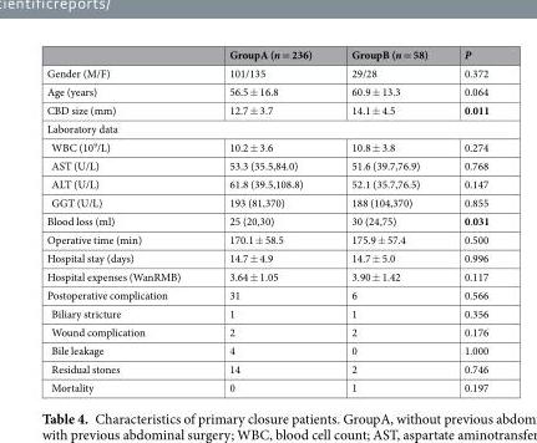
<table><thead><tr><td></td><td>GroupA (n = 236)</td><td>GroupB (n = 58)</td><td>P</td></tr></thead><tbody><tr><td>Gender (M/F)</td><td>101/135</td><td>29/28</td><td>0.372</td></tr><tr><td>Age (years)</td><td>56.5 ± 16.8</td><td>60.9 ± 13.3</td><td>0.064</td></tr><tr><td>CBD size (mm)</td><td>12.7 ± 3.7</td><td>14.1 ± 4.5</td><td>0.011</td></tr><tr><td colspan="4">Laboratory data</td></tr><tr><td>WBC (10<sup>9</sup>/L)</td><td>10.2 ± 3.6</td><td>10.8 ± 3.8</td><td>0.274</td></tr><tr><td>AST (U/L)</td><td>53.3 (35.5,84.0)</td><td>51.6 (39.7,76.9)</td><td>0.768</td></tr><tr><td>ALT (U/L)</td><td>61.8 (39.5,108.8)</td><td>52.1 (35.7,76.5)</td><td>0.147</td></tr><tr><td>GGT (U/L)</td><td>193 (81,370)</td><td>188 (104,370)</td><td>0.855</td></tr><tr><td>Blood loss (ml)</td><td>25 (20,30)</td><td>30 (24,75)</td><td>0.031</td></tr><tr><td>Operative time (min)</td><td>170.1 ± 58.5</td><td>175.9 ± 57.4</td><td>0.500</td></tr><tr><td>Hospital stay (days)</td><td>14.7 ± 4.9</td><td>14.7 ± 5.0</td><td>0.996</td></tr><tr><td>Hospital expenses (WanRMB)</td><td>3.64 ± 1.05</td><td>3.90 ± 1.42</td><td>0.117</td></tr><tr><td>Postoperative complication</td><td>31</td><td>6</td><td>0.566</td></tr><tr><td>Biliary stricture</td><td>1</td><td>1</td><td>0.356</td></tr><tr><td>Wound complication</td><td>2</td><td>2</td><td>0.176</td></tr><tr><td>Bile leakage</td><td>4</td><td>0</td><td>1.000</td></tr><tr><td>Residual stones</td><td>14</td><td>2</td><td>0.746</td></tr><tr><td>Mortality</td><td>0</td><td>1</td><td>0.197</td></tr></tbody></table>